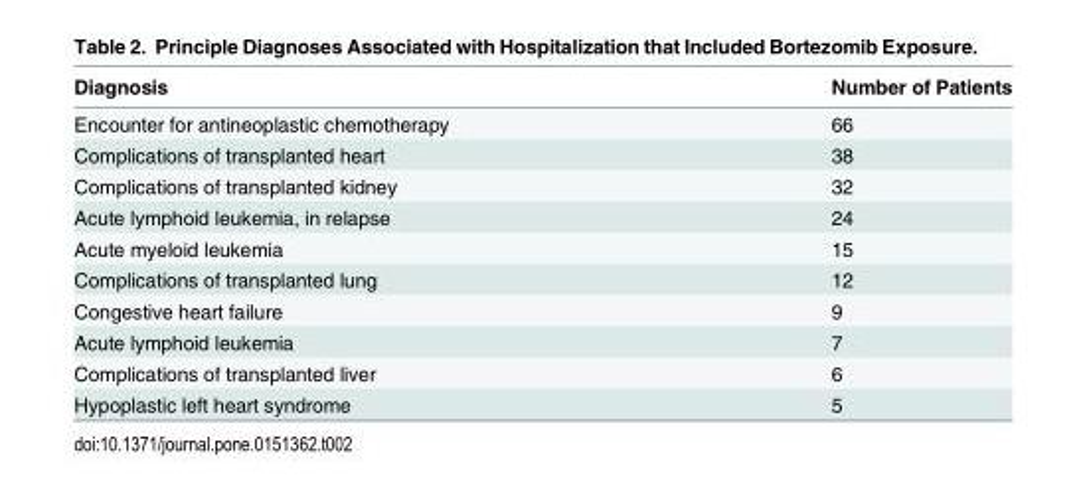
<table><thead><tr><td>Diagnosis</td><td>Number of Patients</td></tr></thead><tbody><tr><td>Encounter for antineoplastic chemotherapy</td><td>66</td></tr><tr><td>Complications of transplanted heart</td><td>38</td></tr><tr><td>Complications of transplanted kidney</td><td>32</td></tr><tr><td>Acute lymphoid leukemia, in relapse</td><td>24</td></tr><tr><td>Acute myeloid leukemia</td><td>15</td></tr><tr><td>Complications of transplanted lung</td><td>12</td></tr><tr><td>Congestive heart failure</td><td>9</td></tr><tr><td>Acute lymphoid leukemia</td><td>7</td></tr><tr><td>Complications of transplanted liver</td><td>6</td></tr><tr><td>Hypoplastic left heart syndrome</td><td>5</td></tr></tbody></table>